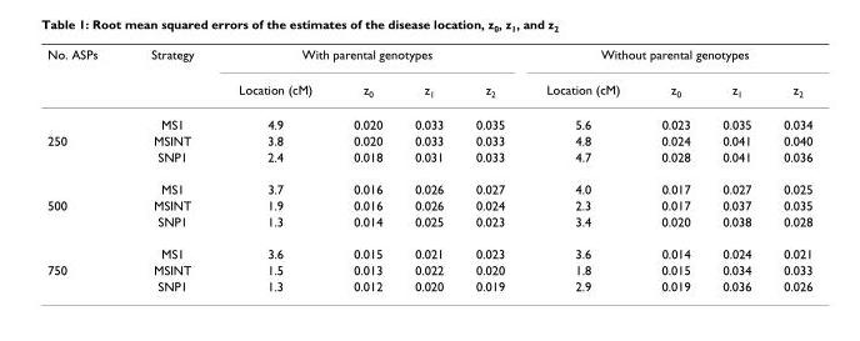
<table><thead><tr><td rowspan="2">No. ASPs</td><td rowspan="2">Strategy</td><td colspan="4">With parental genotypes</td><td colspan="4">Without parental genotypes</td></tr><tr><td>Location (cM)</td><td>z<sub>0</sub></td><td>z<sub>1</sub></td><td>z<sub>2</sub></td><td>Location (cM)</td><td>z<sub>0</sub></td><td>z<sub>1</sub></td><td>z<sub>2</sub></td></tr></thead><tbody><tr><td></td><td>MS1</td><td>4.9</td><td>0.020</td><td>0.033</td><td>0.035</td><td>5.6</td><td>0.023</td><td>0.035</td><td>0.034</td></tr><tr><td rowspan="3">250</td><td>MSINT</td><td>3.8</td><td>0.020</td><td>0.033</td><td>0.033</td><td>4.8</td><td>0.024</td><td>0.041</td><td>0.040</td></tr><tr><td>SNP1</td><td>2.4</td><td>0.018</td><td>0.031</td><td>0.033</td><td>4.7</td><td>0.028</td><td>0.041</td><td>0.036</td></tr><tr><td>MS1</td><td>3.7</td><td>0.016</td><td>0.026</td><td>0.027</td><td>4.0</td><td>0.017</td><td>0.027</td><td>0.025</td></tr><tr><td rowspan="3">500</td><td>MSINT</td><td>1.9</td><td>0.016</td><td>0.026</td><td>0.024</td><td>2.3</td><td>0.017</td><td>0.037</td><td>0.035</td></tr><tr><td>SNP1</td><td>1.3</td><td>0.014</td><td>0.025</td><td>0.023</td><td>3.4</td><td>0.020</td><td>0.038</td><td>0.028</td></tr><tr><td>MS1</td><td>3.6</td><td>0.015</td><td>0.021</td><td>0.023</td><td>3.6</td><td>0.014</td><td>0.024</td><td>0.021</td></tr><tr><td rowspan="2">750</td><td>MSINT</td><td>1.5</td><td>0.013</td><td>0.022</td><td>0.020</td><td>1.8</td><td>0.015</td><td>0.034</td><td>0.033</td></tr><tr><td>SNP1</td><td>1.3</td><td>0.012</td><td>0.020</td><td>0.019</td><td>2.9</td><td>0.019</td><td>0.036</td><td>0.026</td></tr></tbody></table>